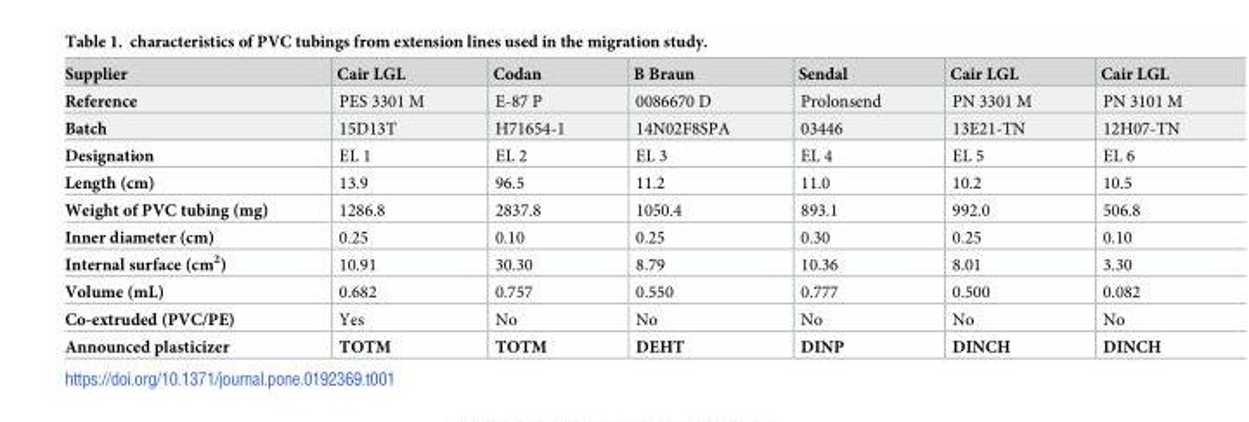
<table><thead><tr><td>Supplier</td><td>Cair LGL</td><td>Codan</td><td>B Braun</td><td>Sendal</td><td>Cair LGL</td><td>Cair LGL</td></tr></thead><tbody><tr><td>Reference</td><td>PES 3301 M</td><td>E-87 P</td><td>0086670 D</td><td>Prolonsend</td><td>PN 3301 M</td><td>PN 3101 M</td></tr><tr><td>Batch</td><td>15D13T</td><td>H71654-1</td><td>14N02F8SPA</td><td>03446</td><td>13E21-TN</td><td>12H07-TN</td></tr><tr><td>Designation</td><td>EL 1</td><td>EL 2</td><td>EL 3</td><td>EL 4</td><td>EL 5</td><td>EL 6</td></tr><tr><td>Length (cm)</td><td>13.9</td><td>96.5</td><td>11.2</td><td>11.0</td><td>10.2</td><td>10.5</td></tr><tr><td>Weight of PVC tubing (mg)</td><td>1286.8</td><td>2837.8</td><td>1050.4</td><td>893.1</td><td>992.0</td><td>506.8</td></tr><tr><td>Inner diameter (cm)</td><td>0.25</td><td>0.10</td><td>0.25</td><td>0.30</td><td>0.25</td><td>0.10</td></tr><tr><td>Internal surface (cm<sup>2</sup>)</td><td>10.91</td><td>30.30</td><td>8.79</td><td>10.36</td><td>8.01</td><td>3.30</td></tr><tr><td>Volume (mL)</td><td>0.682</td><td>0.757</td><td>0.550</td><td>0.777</td><td>0.500</td><td>0.082</td></tr><tr><td>Co-extruded (PVC/PE)</td><td>Yes</td><td>No</td><td>No</td><td>No</td><td>No</td><td>No</td></tr><tr><td>Announced plasticizer</td><td>TOTM</td><td>TOTM</td><td>DEHT</td><td>DINP</td><td>DINCH</td><td>DINCH</td></tr></tbody></table>